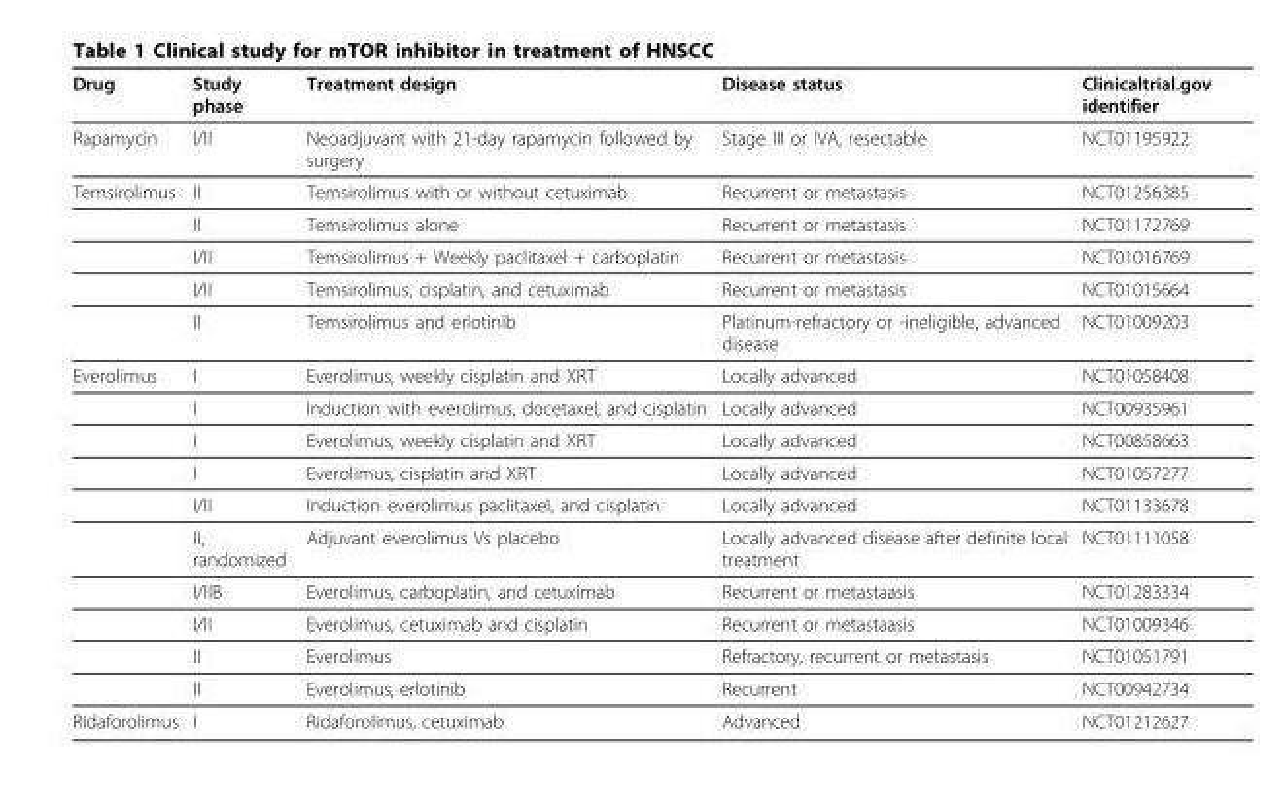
<table><thead><tr><td>Drug</td><td>Study phase</td><td>Treatment design</td><td>Disease status</td><td>Clinicaltrial.gov identifier</td></tr></thead><tbody><tr><td>Rapamycin</td><td>I/II</td><td>Neoadjuvant with 21-day rapamycin followed by surgery</td><td>Stage III or IVA, resectable</td><td>NCT01195922</td></tr><tr><td rowspan="5">Temsirolimus</td><td>II</td><td>Temsirolimus with or without cetuximab</td><td>Recurrent or metastasis</td><td>NCT01256385</td></tr><tr><td>II</td><td>Temsirolimus alone</td><td>Recurrent or metastasis</td><td>NCT01172769</td></tr><tr><td>I/II</td><td>Temsirolimus + Weekly paclitaxel + carboplatin</td><td>Recurrent or metastasis</td><td>NCT01016769</td></tr><tr><td>I/II</td><td>Temsirolimus, cisplatin, and cetuximab</td><td>Recurrent or metastasis</td><td>NCT01015664</td></tr><tr><td>II</td><td>Temsirolimus and erlotinib</td><td>Platinum-refractory or -ineligible, advanced disease</td><td>NCT01009203</td></tr><tr><td rowspan="10">Everolimus</td><td>I</td><td>Everolimus, weekly cisplatin and XRT</td><td>Locally advanced</td><td>NCT01058408</td></tr><tr><td>I</td><td>Induction with everolimus, docetaxel, and cisplatin</td><td>Locally advanced</td><td>NCT00935961</td></tr><tr><td>I</td><td>Everolimus, weekly cisplatin and XRT</td><td>Locally advanced</td><td>NCT00858663</td></tr><tr><td>I</td><td>Everolimus, cisplatin and XRT</td><td>Locally advanced</td><td>NCT01057277</td></tr><tr><td>I/II</td><td>Induction everolimus paclitaxel, and cisplatin</td><td>Locally advanced</td><td>NCT01133678</td></tr><tr><td>II, randomized</td><td>Adjuvant everolimus Vs placebo</td><td>Locally advanced disease after definite local treatment</td><td>NCT01111058</td></tr><tr><td>I/IIB</td><td>Everolimus, carboplatin, and cetuximab</td><td>Recurrent or metastaasis</td><td>NCT01283334</td></tr><tr><td>I/II</td><td>Everolimus, cetuximab and cisplatin</td><td>Recurrent or metastaasis</td><td>NCT01009346</td></tr><tr><td>II</td><td>Everolimus</td><td>Refractory, recurrent or metastasis</td><td>NCT01051791</td></tr><tr><td>II</td><td>Everolimus, erlotinib</td><td>Recurrent</td><td>NCT00942734</td></tr><tr><td>Ridaforolimus</td><td>I</td><td>Ridaforolimus, cetuximab</td><td>Advanced</td><td>NCT01212627</td></tr></tbody></table>